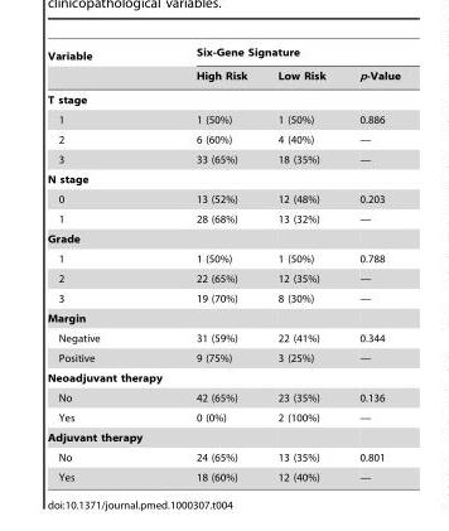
<table><thead><tr><td rowspan="2">Variable</td><td colspan="3">Six-Gene Signature</td></tr><tr><td>High Risk</td><td>Low Risk</td><td>p-Value</td></tr></thead><tbody><tr><td colspan="4">T stage</td></tr><tr><td>1</td><td>1 (50%)</td><td>1 (50%)</td><td>0.886</td></tr><tr><td>2</td><td>6 (60%)</td><td>4 (40%)</td><td>—</td></tr><tr><td>3</td><td>33 (65%)</td><td>18 (35%)</td><td>—</td></tr><tr><td colspan="4">N stage</td></tr><tr><td>0</td><td>13 (52%)</td><td>12 (48%)</td><td>0.203</td></tr><tr><td>1</td><td>28 (68%)</td><td>13 (32%)</td><td>—</td></tr><tr><td colspan="4">Grade</td></tr><tr><td>1</td><td>1 (50%)</td><td>1 (50%)</td><td>0.788</td></tr><tr><td>2</td><td>22 (65%)</td><td>12 (35%)</td><td>—</td></tr><tr><td>3</td><td>19 (70%)</td><td>8 (30%)</td><td>—</td></tr><tr><td colspan="4">Margin</td></tr><tr><td>Negative</td><td>31 (59%)</td><td>22 (41%)</td><td>0.344</td></tr><tr><td>Positive</td><td>9 (75%)</td><td>3 (25%)</td><td>—</td></tr><tr><td colspan="4">Neoadjuvant therapy</td></tr><tr><td>No</td><td>42 (65%)</td><td>23 (35%)</td><td>0.136</td></tr><tr><td>Yes</td><td>0 (0%)</td><td>2 (100%)</td><td>—</td></tr><tr><td colspan="4">Adjuvant therapy</td></tr><tr><td>No</td><td>24 (65%)</td><td>13 (35%)</td><td>0.801</td></tr><tr><td>Yes</td><td>18 (60%)</td><td>12 (40%)</td><td>—</td></tr></tbody></table>